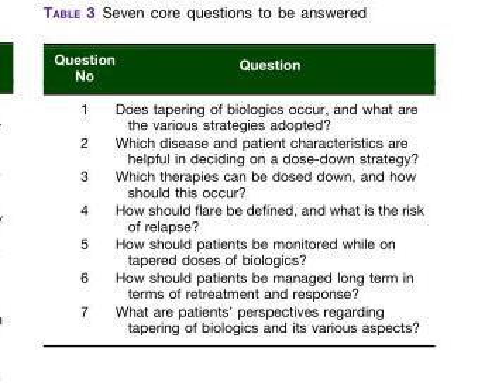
<table><thead><tr><td>Question No</td><td>Question</td></tr></thead><tbody><tr><td>1</td><td>Does tapering of biologics occur, and what are the various strategies adopted?</td></tr><tr><td>2</td><td>Which disease and patient characteristics are helpful in deciding on a dose-down strategy?</td></tr><tr><td>3</td><td>Which therapies can be dosed down, and how should this occur?</td></tr><tr><td>4</td><td>How should flare be defined, and what is the risk of relapse?</td></tr><tr><td>5</td><td>How should patients be monitored while on tapered doses of biologics?</td></tr><tr><td>6</td><td>How should patients be managed long term in terms of retreatment and response?</td></tr><tr><td>7</td><td>What are patients’ perspectives regarding tapering of biologics and its various aspects?</td></tr></tbody></table>